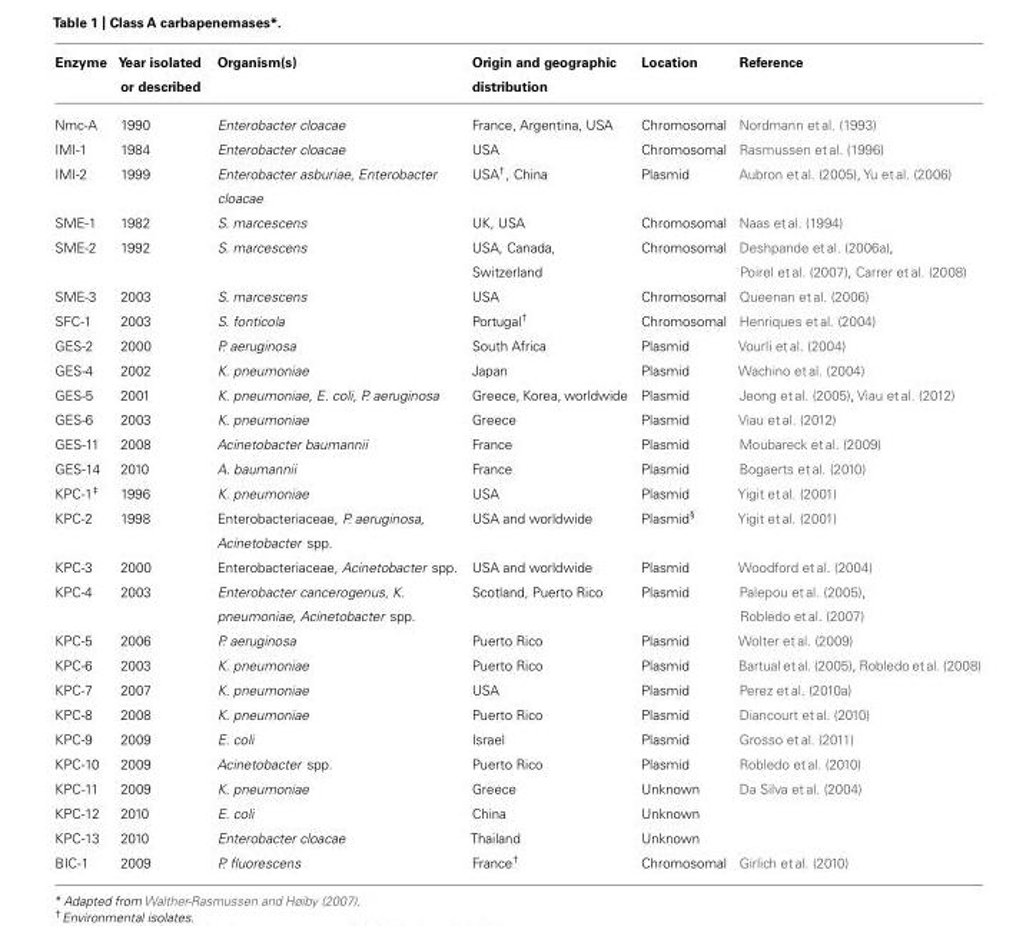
<table><thead><tr><td>Enzyme</td><td>Year isolated or described</td><td>Organism(s)</td><td>Origin and geographic distribution</td><td>Location</td><td>Reference</td></tr></thead><tbody><tr><td>Nmc-A</td><td>1990</td><td>Enterobacter cloacae</td><td>France, Argentina, USA</td><td>Chromosomal</td><td>Nordmann et al. (1993)</td></tr><tr><td>IMI-1</td><td>1984</td><td>Enterobacter cloacae</td><td>USA</td><td>Chromosomal</td><td>Rasmussen et al. (1996)</td></tr><tr><td>IMI-2</td><td>1999</td><td>Enterobacter asburiae, Enterobacter cloacae</td><td>USA<sup>†</sup>, China</td><td>Plasmid</td><td>Aubron et al. (2005), Yu et al. (2006)</td></tr><tr><td>SME-1</td><td>1982</td><td>S. marcescens</td><td>UK, USA</td><td>Chromosomal</td><td>Naas et al. (1994)</td></tr><tr><td>SME-2</td><td>1992</td><td>S. marcescens</td><td>USA, Canada, Switzerland</td><td>Chromosomal</td><td>Deshpande et al. (2006a), Poirel et al. (2007), Carrer et al. (2008)</td></tr><tr><td>SME-3</td><td>2003</td><td>S. marcescens</td><td>USA</td><td>Chromosomal</td><td>Queenan et al. (2006)</td></tr><tr><td>SFC-1</td><td>2003</td><td>S. fonticola</td><td>Portugal<sup>†</sup></td><td>Chromosomal</td><td>Henriques et al. (2004)</td></tr><tr><td>GES-2</td><td>2000</td><td>P. aeruginosa</td><td>South Africa</td><td>Plasmid</td><td>Vourli et al. (2004)</td></tr><tr><td>GES-4</td><td>2002</td><td>K. pneumoniae</td><td>Japan</td><td>Plasmid</td><td>Wachino et al. (2004)</td></tr><tr><td>GES-5</td><td>2001</td><td>K. pneumoniae, E. coli, P. aeruginosa</td><td>Greece, Korea, worldwide</td><td>Plasmid</td><td>Jeong et al. (2005), Viau et al. (2012)</td></tr><tr><td>GES-6</td><td>2003</td><td>K. pneumoniae</td><td>Greece</td><td>Plasmid</td><td>Viau et al. (2012)</td></tr><tr><td>GES-11</td><td>2008</td><td>Acinetobacter baumannii</td><td>France</td><td>Plasmid</td><td>Moubareck et al. (2009)</td></tr><tr><td>GES-14</td><td>2010</td><td>A. baumannii</td><td>France</td><td>Plasmid</td><td>Bogaerts et al. (2010)</td></tr><tr><td>KPC-1<sup>‡</sup></td><td>1996</td><td>K. pneumoniae</td><td>USA</td><td>Plasmid</td><td>Yigit et al. (2001)</td></tr><tr><td>KPC-2</td><td>1998</td><td>Enterobacteriaceae, P. aeruginosa, Acinetobacter spp.</td><td>USA and worldwide</td><td>Plasmid<sup>§</sup></td><td>Yigit et al. (2001)</td></tr><tr><td>KPC-3</td><td>2000</td><td>Enterobacteriaceae, Acinetobacter spp.</td><td>USA and worldwide</td><td>Plasmid</td><td>Woodford et al. (2004)</td></tr><tr><td>KPC-4</td><td>2003</td><td>Enterobacter cancerogenus, K. pneumoniae, Acinetobacter spp.</td><td>Scotland, Puerto Rico</td><td>Plasmid</td><td>Palepou et al. (2005), Robledo et al. (2007)</td></tr><tr><td>KPC-5</td><td>2006</td><td>P. aeruginosa</td><td>Puerto Rico</td><td>Plasmid</td><td>Wolter et al. (2009)</td></tr><tr><td>KPC-6</td><td>2003</td><td>K. pneumoniae</td><td>Puerto Rico</td><td>Plasmid</td><td>Bartual et al. (2005), Robledo et al. (2008)</td></tr><tr><td>KPC-7</td><td>2007</td><td>K. pneumoniae</td><td>USA</td><td>Plasmid</td><td>Perez et al. (2010a)</td></tr><tr><td>KPC-8</td><td>2008</td><td>K. pneumoniae</td><td>Puerto Rico</td><td>Plasmid</td><td>Diancourt et al. (2010)</td></tr><tr><td>KPC-9</td><td>2009</td><td>E. coli</td><td>Israel</td><td>Plasmid</td><td>Grosso et al. (2011)</td></tr><tr><td>KPC-10</td><td>2009</td><td>Acinetobacter spp.</td><td>Puerto Rico</td><td>Plasmid</td><td>Robledo et al. (2010)</td></tr><tr><td>KPC-11</td><td>2009</td><td>K. pneumoniae</td><td>Greece</td><td>Unknown</td><td>Da Silva et al. (2004)</td></tr><tr><td>KPC-12</td><td>2010</td><td>E. coli</td><td>China</td><td>Unknown</td><td></td></tr><tr><td>KPC-13</td><td>2010</td><td>Enterobacter cloacae</td><td>Thailand</td><td>Unknown</td><td></td></tr><tr><td>BIC-1</td><td>2009</td><td>P. fluorescens</td><td>France<sup>†</sup></td><td>Chromosomal</td><td>Girlich et al. (2010)</td></tr></tbody></table>